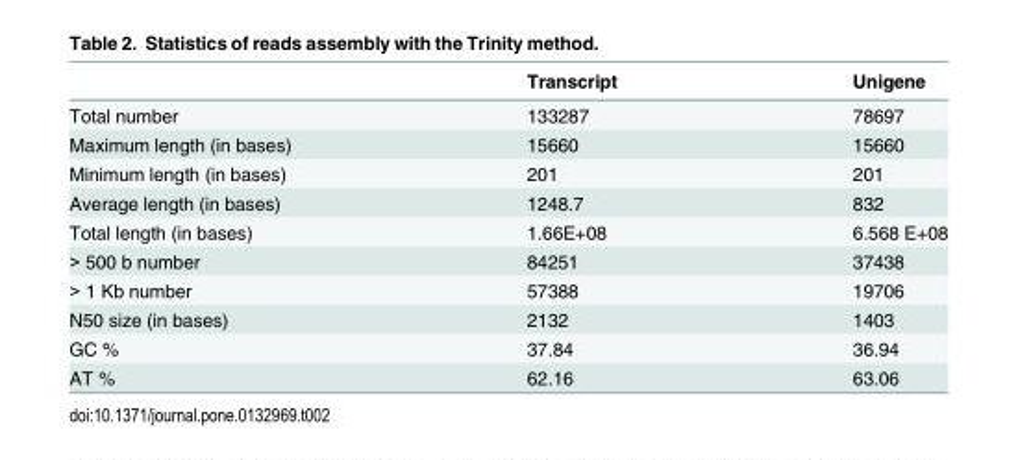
<table><thead><tr><td></td><td>Transcript</td><td>Unigene</td></tr></thead><tbody><tr><td>Total number</td><td>133287</td><td>78697</td></tr><tr><td>Maximum length (in bases)</td><td>15660</td><td>15660</td></tr><tr><td>Minimum length (in bases)</td><td>201</td><td>201</td></tr><tr><td>Average length (in bases)</td><td>1248.7</td><td>832</td></tr><tr><td>Total length (in bases)</td><td>1.66E+08</td><td>6.568 E+08</td></tr><tr><td>&gt; 500 b number</td><td>84251</td><td>37438</td></tr><tr><td>&gt; 1 Kb number</td><td>57388</td><td>19706</td></tr><tr><td>N50 size (in bases)</td><td>2132</td><td>1403</td></tr><tr><td>GC %</td><td>37.84</td><td>36.94</td></tr><tr><td>AT %</td><td>62.16</td><td>63.06</td></tr></tbody></table>